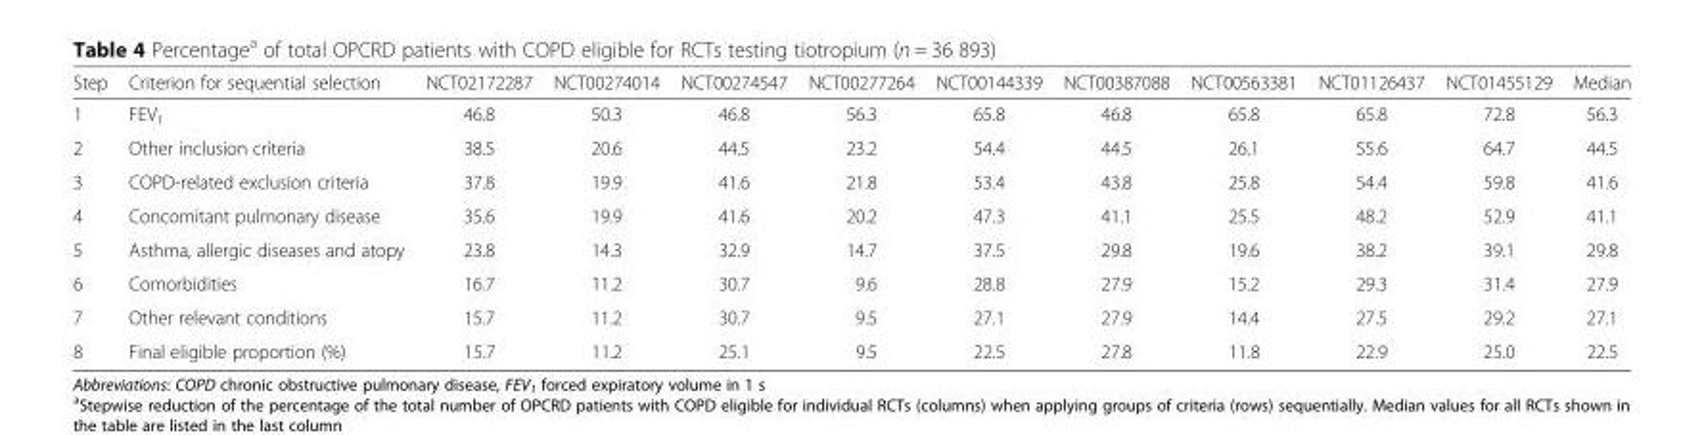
<table><thead><tr><td>Step</td><td>Criterion for sequential selection</td><td>NCT02172287</td><td>NCT00274014</td><td>NCT00274547</td><td>NCT00277264</td><td>NCT00144339</td><td>NCT00387088</td><td>NCT00563381</td><td>NCT01126437</td><td>NCT01455129</td><td>Median</td></tr></thead><tbody><tr><td>1</td><td>FEV<sub>1</sub></td><td>46.8</td><td>50.3</td><td>46.8</td><td>56.3</td><td>65.8</td><td>46.8</td><td>65.8</td><td>65.8</td><td>72.8</td><td>56.3</td></tr><tr><td>2</td><td>Other inclusion criteria</td><td>38.5</td><td>20.6</td><td>44.5</td><td>23.2</td><td>54.4</td><td>44.5</td><td>26.1</td><td>55.6</td><td>64.7</td><td>44.5</td></tr><tr><td>3</td><td>COPD-related exclusion criteria</td><td>37.8</td><td>19.9</td><td>41.6</td><td>21.8</td><td>53.4</td><td>43.8</td><td>25.8</td><td>54.4</td><td>59.8</td><td>41.6</td></tr><tr><td>4</td><td>Concomitant pulmonary disease</td><td>35.6</td><td>19.9</td><td>41.6</td><td>20.2</td><td>47.3</td><td>41.1</td><td>25.5</td><td>48.2</td><td>52.9</td><td>41.1</td></tr><tr><td>5</td><td>Asthma, allergic diseases and atopy</td><td>23.8</td><td>14.3</td><td>32.9</td><td>14.7</td><td>37.5</td><td>29.8</td><td>19.6</td><td>38.2</td><td>39.1</td><td>29.8</td></tr><tr><td>6</td><td>Comorbidities</td><td>16.7</td><td>11.2</td><td>30.7</td><td>9.6</td><td>28.8</td><td>27.9</td><td>15.2</td><td>29.3</td><td>31.4</td><td>27.9</td></tr><tr><td>7</td><td>Other relevant conditions</td><td>15.7</td><td>11.2</td><td>30.7</td><td>9.5</td><td>27.1</td><td>27.9</td><td>14.4</td><td>27.5</td><td>29.2</td><td>27.1</td></tr><tr><td>8</td><td>Final eligible proportion (%)</td><td>15.7</td><td>11.2</td><td>25.1</td><td>9.5</td><td>22.5</td><td>27.8</td><td>11.8</td><td>22.9</td><td>25.0</td><td>22.5</td></tr></tbody></table>